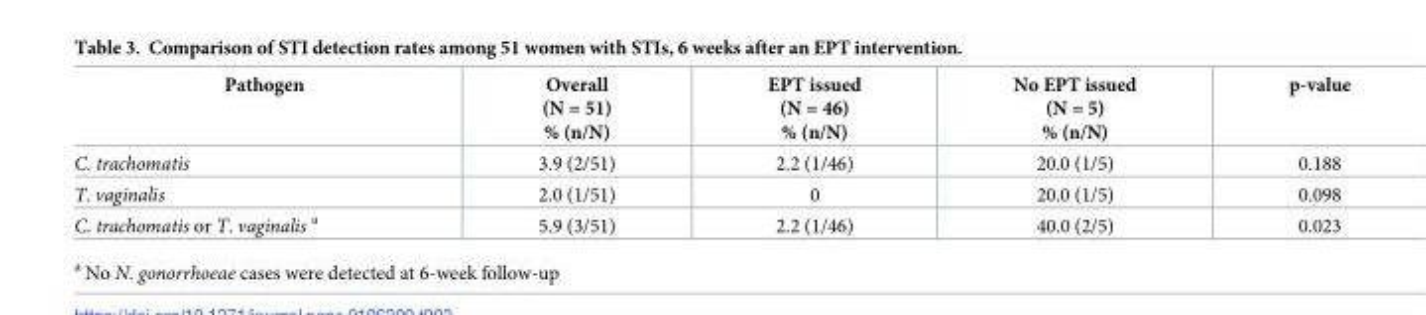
<table><thead><tr><td>Pathogen</td><td>Overall (N = 51) % (n/N)</td><td>EPT issued (N = 46) % (n/N)</td><td>No EPT issued (N = 5) % (n/N)</td><td>p-value</td></tr></thead><tbody><tr><td>C. trachomatis</td><td>3.9 (2/51)</td><td>2.2 (1/46)</td><td>20.0 (1/5)</td><td>0.188</td></tr><tr><td>T. vaginalis</td><td>2.0 (1/51)</td><td>0</td><td>20.0 (1/5)</td><td>0.098</td></tr><tr><td>C. trachomatis or T. vaginalis <sup>a</sup></td><td>5.9 (3/51)</td><td>2.2 (1/46)</td><td>40.0 (2/5)</td><td>0.023</td></tr></tbody></table>